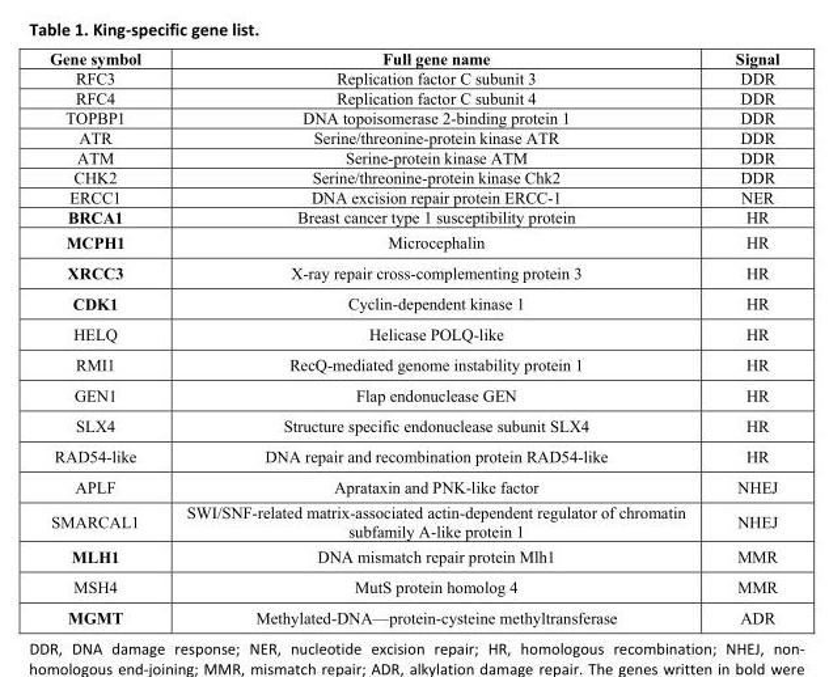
<table><tbody><tr><td>Gene symbol</td><td>Full gene name</td><td>Signal</td></tr><tr><td>RFC3</td><td>Replication factor C subunit 3</td><td>DDR</td></tr><tr><td>RFC4</td><td>Replication factor C subunit 4</td><td>DDR</td></tr><tr><td>TOPBP1</td><td>DNA topoisomerase 2-binding protein 1</td><td>DDR</td></tr><tr><td>ATR</td><td>Serine/threonine-protein kinase ATR</td><td>DDR</td></tr><tr><td>ATM</td><td>Serine-protein kinase ATM</td><td>DDR</td></tr><tr><td>CHK2</td><td>Serine/threonine-protein kinase Chk2</td><td>DDR</td></tr><tr><td>ERCC1</td><td>DNA excision repair protein ERCC-1</td><td>NER</td></tr><tr><td>BRCA1</td><td>Breast cancer type 1 susceptibility protein</td><td>HR</td></tr><tr><td>MCPH1</td><td>Microcephalin</td><td>HR</td></tr><tr><td>XRCC3</td><td>X-ray repair cross-complementing protein 3</td><td>HR</td></tr><tr><td>CDK1</td><td>Cyclin-dependent kinase 1</td><td>HR</td></tr><tr><td>HELQ</td><td>Helicase POLQ-like</td><td>HR</td></tr><tr><td>RMI1</td><td>RecQ-mediated genome instability protein 1</td><td>HR</td></tr><tr><td>GEN1</td><td>Flap endonuclease GEN</td><td>HR</td></tr><tr><td>SLX4</td><td>Structure specific endonuclease subunit SLX4</td><td>HR</td></tr><tr><td>RAD54-like</td><td>DNA repair and recombination protein RAD54-like</td><td>HR</td></tr><tr><td>APLF</td><td>Aprataxin and PNK-like factor</td><td>NHEJ</td></tr><tr><td>SMARCAL1</td><td>SWI/SNF-related matrix-associated actin-dependent regulator of chromatin subfamily A-like protein 1</td><td>NHEJ</td></tr><tr><td>MLH1</td><td>DNA mismatch repair protein Mlh1</td><td>MMR</td></tr><tr><td>MSH4</td><td>MutS protein homolog 4</td><td>MMR</td></tr><tr><td>MGMT</td><td>Methylated-DNA—protein-cysteine methyltransferase</td><td>ADR</td></tr></tbody></table>